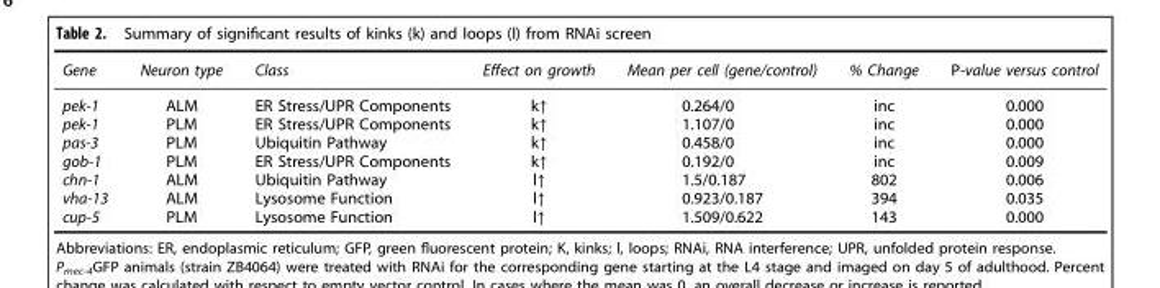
<table><thead><tr><td>Gene</td><td>Neuron type</td><td>Class</td><td>Effect on growth</td><td>Mean per cell (gene/control)</td><td>% Change</td><td>P-value versus control</td></tr></thead><tbody><tr><td>pek-1</td><td>ALM</td><td>ER Stress/UPR Components</td><td>k↑</td><td>0.264/0</td><td>inc</td><td>0.000</td></tr><tr><td>pek-1</td><td>PLM</td><td>ER Stress/UPR Components</td><td>k↑</td><td>1.107/0</td><td>inc</td><td>0.000</td></tr><tr><td>pas-3</td><td>PLM</td><td>Ubiquitin Pathway</td><td>k↑</td><td>0.458/0</td><td>inc</td><td>0.000</td></tr><tr><td>gob-1</td><td>PLM</td><td>ER Stress/UPR Components</td><td>k↑</td><td>0.192/0</td><td>inc</td><td>0.009</td></tr><tr><td>chn-1</td><td>ALM</td><td>Ubiquitin Pathway</td><td>l↑</td><td>1.5/0.187</td><td>802</td><td>0.006</td></tr><tr><td>vha-13</td><td>ALM</td><td>Lysosome Function</td><td>l↑</td><td>0.923/0.187</td><td>394</td><td>0.035</td></tr><tr><td>cup-5</td><td>PLM</td><td>Lysosome Function</td><td>l↑</td><td>1.509/0.622</td><td>143</td><td>0.000</td></tr></tbody></table>